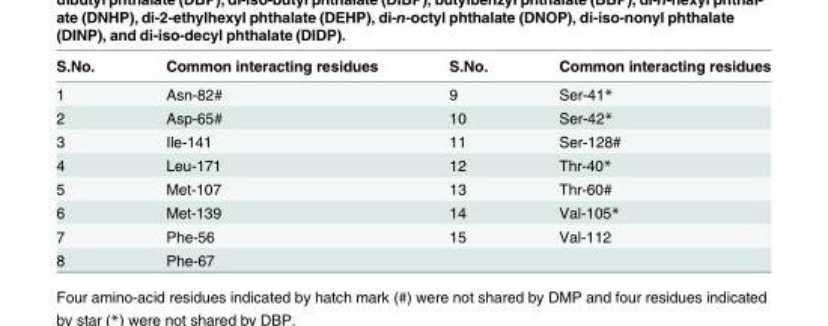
<table><thead><tr><td>S.No.</td><td>Common interacting residues</td><td>S.No.</td><td>Common interacting residues</td></tr></thead><tbody><tr><td>1</td><td>Asn-82#</td><td>9</td><td>Ser-41*</td></tr><tr><td>2</td><td>Asp-65#</td><td>10</td><td>Ser-42*</td></tr><tr><td>3</td><td>Ile-141</td><td>11</td><td>Ser-128#</td></tr><tr><td>4</td><td>Leu-171</td><td>12</td><td>Thr-40*</td></tr><tr><td>5</td><td>Met-107</td><td>13</td><td>Thr-60#</td></tr><tr><td>6</td><td>Met-139</td><td>14</td><td>Val-105*</td></tr><tr><td>7</td><td>Phe-56</td><td>15</td><td>Val-112</td></tr><tr><td>8</td><td>Phe-67</td><td></td><td></td></tr></tbody></table>